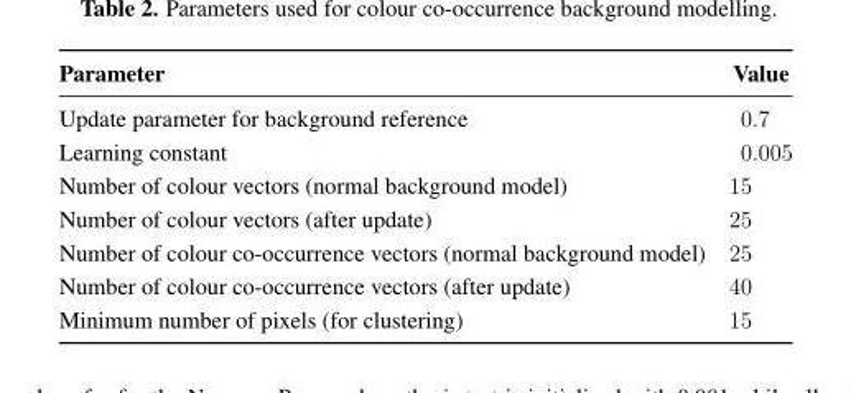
<table><thead><tr><td>Parameter</td><td>Value</td></tr></thead><tbody><tr><td>Update parameter for background reference</td><td>0.7</td></tr><tr><td>Learning constant</td><td>0.005</td></tr><tr><td>Number of colour vectors (normal background model)</td><td>15</td></tr><tr><td>Number of colour vectors (after update)</td><td>25</td></tr><tr><td>Number of colour co-occurrence vectors (normal background model)</td><td>25</td></tr><tr><td>Number of colour co-occurrence vectors (after update)</td><td>40</td></tr><tr><td>Minimum number of pixels (for clustering)</td><td>15</td></tr></tbody></table>